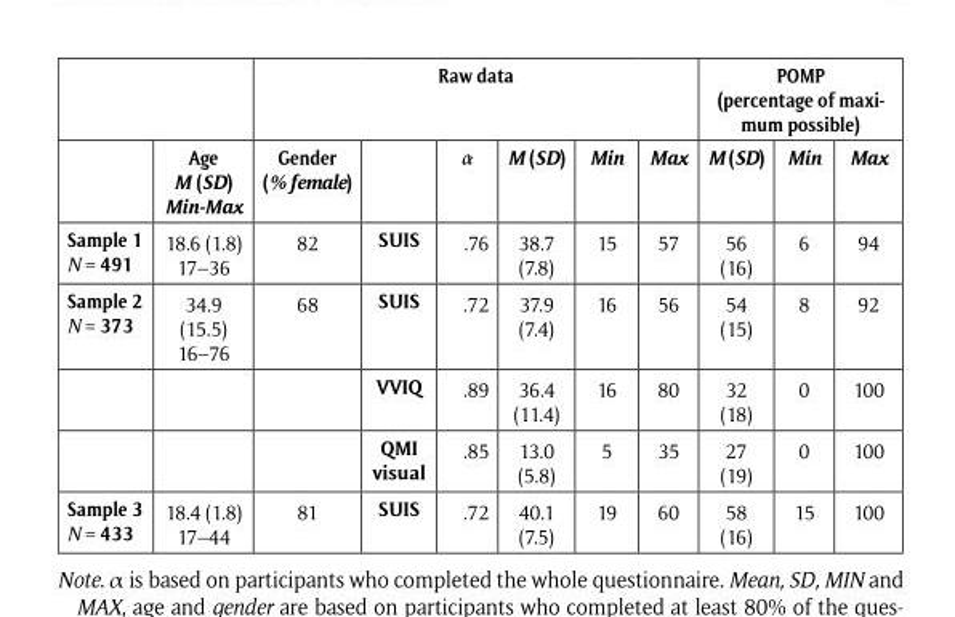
<table><thead><tr><td rowspan="2"></td><td rowspan="2">Age M (SD) Min-Max</td><td colspan="6">Raw data</td><td colspan="3">POMP (percentage of maxi- mum possible)</td></tr><tr><td>Gender (% female)</td><td></td><td>α</td><td>M (SD)</td><td>Min</td><td>Max</td><td>M (SD)</td><td>Min</td><td>Max</td></tr></thead><tbody><tr><td>Sample 1 N = 491</td><td>18.6 (1.8) 17–36</td><td>82</td><td>SUIS</td><td>.76</td><td>38.7 (7.8)</td><td>15</td><td>57</td><td>56 (16)</td><td>6</td><td>94</td></tr><tr><td rowspan="3">Sample 2 N = 373</td><td>34.9 (15.5) 16–76</td><td>68</td><td>SUIS</td><td>.72</td><td>37.9 (7.4)</td><td>16</td><td>56</td><td>54 (15)</td><td>8</td><td>92</td></tr><tr><td></td><td></td><td>VVIQ</td><td>.89</td><td>36.4 (11.4)</td><td>16</td><td>80</td><td>32 (18)</td><td>0</td><td>100</td></tr><tr><td></td><td></td><td>QMI visual</td><td>.85</td><td>13.0 (5.8)</td><td>5</td><td>35</td><td>27 (19)</td><td>0</td><td>100</td></tr><tr><td>Sample 3 N = 433</td><td>18.4 (1.8) 17–44</td><td>81</td><td>SUIS</td><td>.72</td><td>40.1 (7.5)</td><td>19</td><td>60</td><td>58 (16)</td><td>15</td><td>100</td></tr></tbody></table>